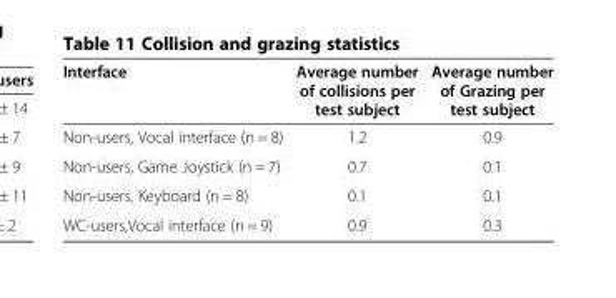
<table><thead><tr><td>Interface</td><td>Average number of collisions per test subject</td><td>Average number of Grazing per test subject</td></tr></thead><tbody><tr><td>Non-users, Vocal interface (n = 8)</td><td>1.2</td><td>0.9</td></tr><tr><td>Non-users, Game Joystick (n = 7)</td><td>0.7</td><td>0.1</td></tr><tr><td>Non-users, Keyboard (n = 8)</td><td>0.1</td><td>0.1</td></tr><tr><td>WC-users,Vocal interface (n = 9)</td><td>0.9</td><td>0.3</td></tr></tbody></table>